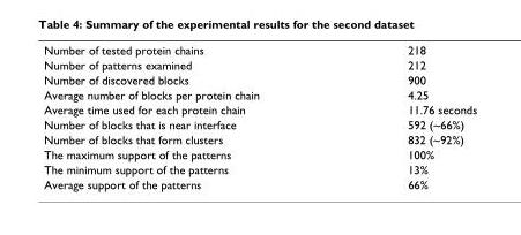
<table><tbody><tr><td>Number of tested protein chains</td><td>218</td></tr><tr><td>Number of patterns examined</td><td>212</td></tr><tr><td>Number of discovered blocks</td><td>900</td></tr><tr><td>Average number of blocks per protein chain</td><td>4.25</td></tr><tr><td>Average time used for each protein chain</td><td>11.76 seconds</td></tr><tr><td>Number of blocks that is near interface</td><td>592 (~66%)</td></tr><tr><td>Number of blocks that form clusters</td><td>832 (~92%)</td></tr><tr><td>The maximum support of the patterns</td><td>100%</td></tr><tr><td>The minimum support of the patterns</td><td>13%</td></tr><tr><td>Average support of the patterns</td><td>66%</td></tr></tbody></table>